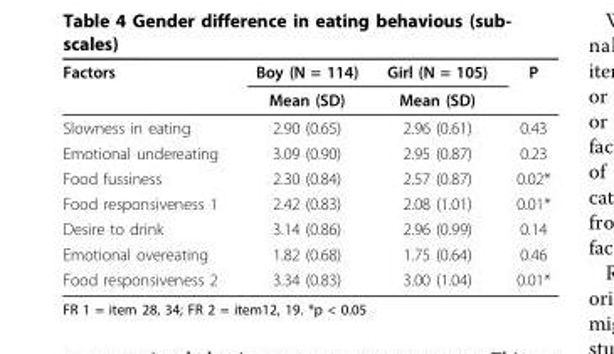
<table><thead><tr><td rowspan="2">Factors</td><td rowspan="2">Boy (N = 114) Mean (SD)</td><td rowspan="2">Girl (N = 105) Mean (SD)</td><td rowspan="2">P</td></tr><tr></tr></thead><tbody><tr><td>Slowness in eating</td><td>2.90 (0.65)</td><td>2.96 (0.61)</td><td>0.43</td></tr><tr><td>Emotional undereating</td><td>3.09 (0.90)</td><td>2.95 (0.87)</td><td>0.23</td></tr><tr><td>Food fussiness</td><td>2.30 (0.84)</td><td>2.57 (0.87)</td><td>0.02*</td></tr><tr><td>Food responsiveness 1</td><td>2.42 (0.83)</td><td>2.08 (1.01)</td><td>0.01*</td></tr><tr><td>Desire to drink</td><td>3.14 (0.86)</td><td>2.96 (0.99)</td><td>0.14</td></tr><tr><td>Emotional overeating</td><td>1.82 (0.68)</td><td>1.75 (0.64)</td><td>0.46</td></tr><tr><td>Food responsiveness 2</td><td>3.34 (0.83)</td><td>3.00 (1.04)</td><td>0.01*</td></tr></tbody></table>